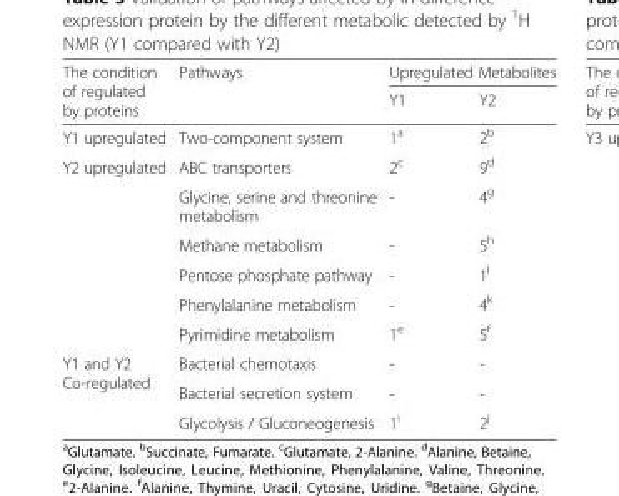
<table><thead><tr><td rowspan="2">The condition of regulated by proteins</td><td rowspan="2">Pathways</td><td colspan="2">Upregulated Metabolites</td></tr><tr><td>Y1</td><td>Y2</td></tr></thead><tbody><tr><td>Y1 upregulated</td><td>Two-component system</td><td>1<sup>a</sup></td><td>2<sup>b</sup></td></tr><tr><td rowspan="6">Y2 upregulated</td><td>ABC transporters</td><td>2<sup>c</sup></td><td>9<sup>d</sup></td></tr><tr><td>Glycine, serine and threonine metabolism</td><td>-</td><td>4<sup>g</sup></td></tr><tr><td>Methane metabolism</td><td>-</td><td>5<sup>h</sup></td></tr><tr><td>Pentose phosphate pathway</td><td>-</td><td>1<sup>l</sup></td></tr><tr><td>Phenylalanine metabolism</td><td>-</td><td>4<sup>k</sup></td></tr><tr><td>Pyrimidine metabolism</td><td>1<sup>e</sup></td><td>5<sup>f</sup></td></tr><tr><td rowspan="3">Y1 and Y2 Co-regulated</td><td>Bacterial chemotaxis</td><td>-</td><td>-</td></tr><tr><td>Bacterial secretion system</td><td>-</td><td>-</td></tr><tr><td>Glycolysis / Gluconeogenesis</td><td>1<sup>i</sup></td><td>2<sup>j</sup></td></tr></tbody></table>